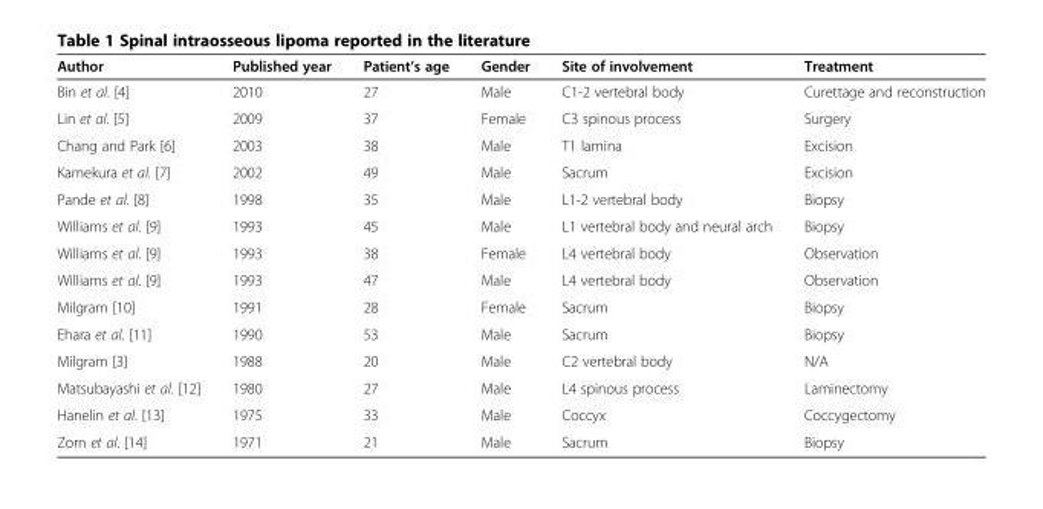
<table><thead><tr><td>Author</td><td>Published year</td><td>Patient’s age</td><td>Gender</td><td>Site of involvement</td><td>Treatment</td></tr></thead><tbody><tr><td>Bin et al. [4]</td><td>2010</td><td>27</td><td>Male</td><td>C1-2 vertebral body</td><td>Curettage and reconstruction</td></tr><tr><td>Lin et al. [5]</td><td>2009</td><td>37</td><td>Female</td><td>C3 spinous process</td><td>Surgery</td></tr><tr><td>Chang and Park [6]</td><td>2003</td><td>38</td><td>Male</td><td>T1 lamina</td><td>Excision</td></tr><tr><td>Kamekura et al. [7]</td><td>2002</td><td>49</td><td>Male</td><td>Sacrum</td><td>Excision</td></tr><tr><td>Pande et al. [8]</td><td>1998</td><td>35</td><td>Male</td><td>L1-2 vertebral body</td><td>Biopsy</td></tr><tr><td>Williams et al. [9]</td><td>1993</td><td>45</td><td>Male</td><td>L1 vertebral body and neural arch</td><td>Biopsy</td></tr><tr><td>Williams et al. [9]</td><td>1993</td><td>38</td><td>Female</td><td>L4 vertebral body</td><td>Observation</td></tr><tr><td>Williams et al. [9]</td><td>1993</td><td>47</td><td>Male</td><td>L4 vertebral body</td><td>Observation</td></tr><tr><td>Milgram [10]</td><td>1991</td><td>28</td><td>Female</td><td>Sacrum</td><td>Biopsy</td></tr><tr><td>Ehara et al. [11]</td><td>1990</td><td>53</td><td>Male</td><td>Sacrum</td><td>Biopsy</td></tr><tr><td>Milgram [3]</td><td>1988</td><td>20</td><td>Male</td><td>C2 vertebral body</td><td>N/A</td></tr><tr><td>Matsubayashi et al. [12]</td><td>1980</td><td>27</td><td>Male</td><td>L4 spinous process</td><td>Laminectomy</td></tr><tr><td>Hanelin et al. [13]</td><td>1975</td><td>33</td><td>Male</td><td>Coccyx</td><td>Coccygectomy</td></tr><tr><td>Zorn et al. [14]</td><td>1971</td><td>21</td><td>Male</td><td>Sacrum</td><td>Biopsy</td></tr></tbody></table>